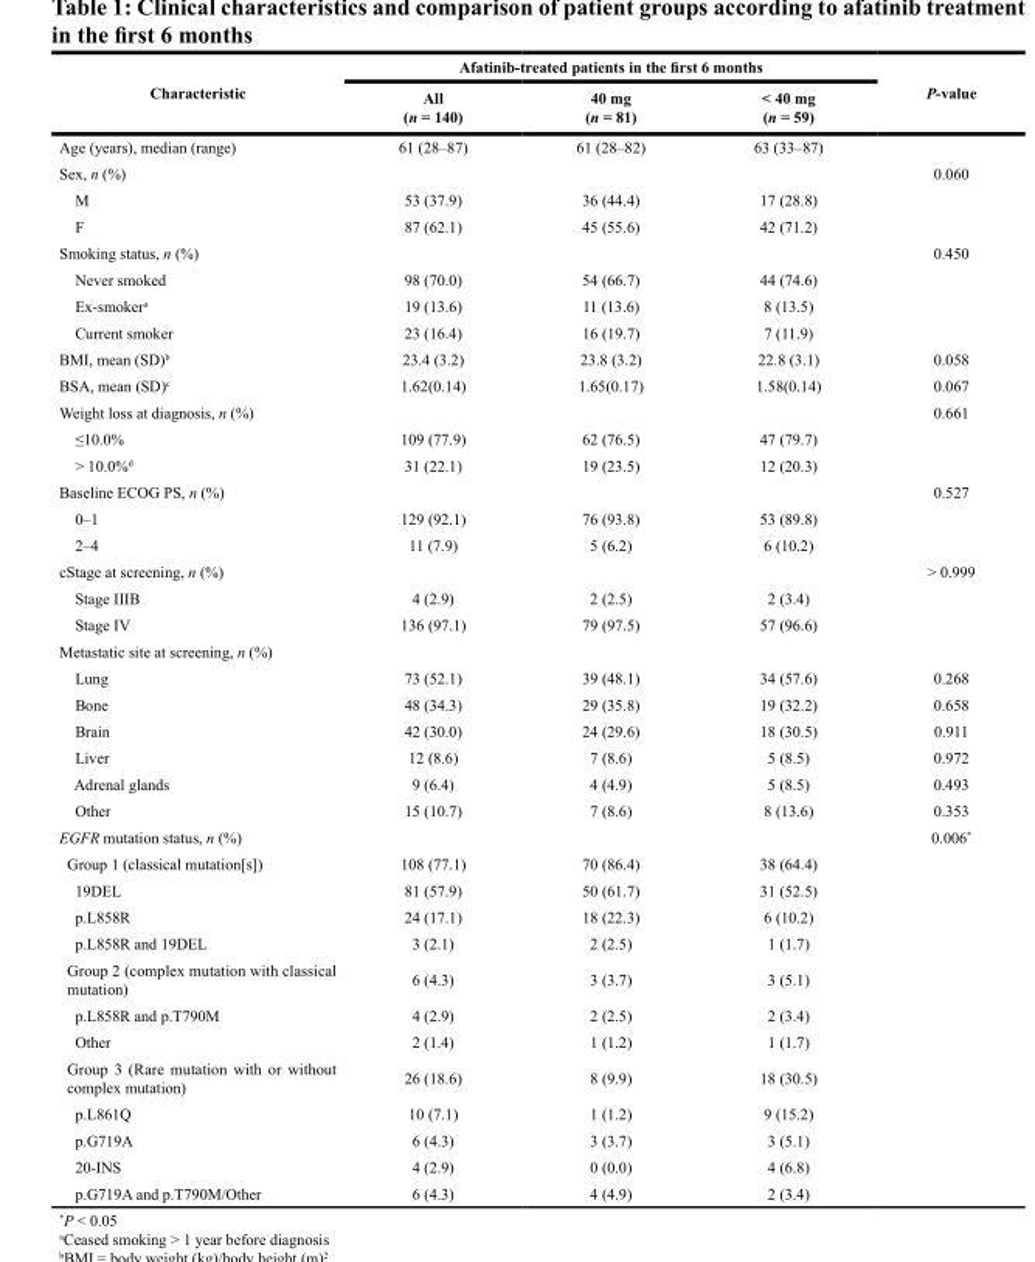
<table><thead><tr><td rowspan="2">Characteristic</td><td colspan="3">Afatinib-treated patients in the first 6 months</td><td rowspan="2">P-value</td></tr><tr><td>All (n = 140)</td><td>40 mg (n = 81)</td><td>&lt; 40 mg (n = 59)</td></tr></thead><tbody><tr><td>Age (years), median (range)</td><td>61 (28–87)</td><td>61 (28–82)</td><td>63 (33–87)</td><td></td></tr><tr><td>Sex, n (%)</td><td></td><td></td><td></td><td>0.060</td></tr><tr><td>M</td><td>53 (37.9)</td><td>36 (44.4)</td><td>17 (28.8)</td><td></td></tr><tr><td>F</td><td>87 (62.1)</td><td>45 (55.6)</td><td>42 (71.2)</td><td></td></tr><tr><td>Smoking status, n (%)</td><td></td><td></td><td></td><td>0.450</td></tr><tr><td>Never smoked</td><td>98 (70.0)</td><td>54 (66.7)</td><td>44 (74.6)</td><td></td></tr><tr><td>Ex-smoker<sup>a</sup></td><td>19 (13.6)</td><td>11 (13.6)</td><td>8 (13.5)</td><td></td></tr><tr><td>Current smoker</td><td>23 (16.4)</td><td>16 (19.7)</td><td>7 (11.9)</td><td></td></tr><tr><td>BMI, mean (SD)<sup>b</sup></td><td>23.4 (3.2)</td><td>23.8 (3.2)</td><td>22.8 (3.1)</td><td>0.058</td></tr><tr><td>BSA, mean (SD)<sup>c</sup></td><td>1.62(0.14)</td><td>1.65(0.17)</td><td>1.58(0.14)</td><td>0.067</td></tr><tr><td>Weight loss at diagnosis, n (%)</td><td></td><td></td><td></td><td>0.661</td></tr><tr><td>≤10.0%</td><td>109 (77.9)</td><td>62 (76.5)</td><td>47 (79.7)</td><td></td></tr><tr><td>&gt; 10.0%<sup>d</sup></td><td>31 (22.1)</td><td>19 (23.5)</td><td>12 (20.3)</td><td></td></tr><tr><td>Baseline ECOG PS, n (%)</td><td></td><td></td><td></td><td>0.527</td></tr><tr><td>0–1</td><td>129 (92.1)</td><td>76 (93.8)</td><td>53 (89.8)</td><td></td></tr><tr><td>2–4</td><td>11 (7.9)</td><td>5 (6.2)</td><td>6 (10.2)</td><td></td></tr><tr><td>cStage at screening, n (%)</td><td></td><td></td><td></td><td>&gt; 0.999</td></tr><tr><td>Stage IIIB</td><td>4 (2.9)</td><td>2 (2.5)</td><td>2 (3.4)</td><td></td></tr><tr><td>Stage IV</td><td>136 (97.1)</td><td>79 (97.5)</td><td>57 (96.6)</td><td></td></tr><tr><td colspan="5">Metastatic site at screening, n (%)</td></tr><tr><td>Lung</td><td>73 (52.1)</td><td>39 (48.1)</td><td>34 (57.6)</td><td>0.268</td></tr><tr><td>Bone</td><td>48 (34.3)</td><td>29 (35.8)</td><td>19 (32.2)</td><td>0.658</td></tr><tr><td>Brain</td><td>42 (30.0)</td><td>24 (29.6)</td><td>18 (30.5)</td><td>0.911</td></tr><tr><td>Liver</td><td>12 (8.6)</td><td>7 (8.6)</td><td>5 (8.5)</td><td>0.972</td></tr><tr><td>Adrenal glands</td><td>9 (6.4)</td><td>4 (4.9)</td><td>5 (8.5)</td><td>0.493</td></tr><tr><td>Other</td><td>15 (10.7)</td><td>7 (8.6)</td><td>8 (13.6)</td><td>0.353</td></tr><tr><td>EGFR mutation status, n (%)</td><td></td><td></td><td></td><td>0.006*</td></tr><tr><td>Group 1 (classical mutation[s])</td><td>108 (77.1)</td><td>70 (86.4)</td><td>38 (64.4)</td><td></td></tr><tr><td>19DEL</td><td>81 (57.9)</td><td>50 (61.7)</td><td>31 (52.5)</td><td></td></tr><tr><td>p.L858R</td><td>24 (17.1)</td><td>18 (22.3)</td><td>6 (10.2)</td><td></td></tr><tr><td>p.L858R and 19DEL</td><td>3 (2.1)</td><td>2 (2.5)</td><td>1 (1.7)</td><td></td></tr><tr><td>Group 2 (complex mutation with classical mutation)</td><td>6 (4.3)</td><td>3 (3.7)</td><td>3 (5.1)</td><td></td></tr><tr><td>p.L858R and p.T790M</td><td>4 (2.9)</td><td>2 (2.5)</td><td>2 (3.4)</td><td></td></tr><tr><td>Other</td><td>2 (1.4)</td><td>1 (1.2)</td><td>1 (1.7)</td><td></td></tr><tr><td>Group 3 (Rare mutation with or without complex mutation)</td><td>26 (18.6)</td><td>8 (9.9)</td><td>18 (30.5)</td><td></td></tr><tr><td>p.L861Q</td><td>10 (7.1)</td><td>1 (1.2)</td><td>9 (15.2)</td><td></td></tr><tr><td>p.G719A</td><td>6 (4.3)</td><td>3 (3.7)</td><td>3 (5.1)</td><td></td></tr><tr><td>20-INS</td><td>4 (2.9)</td><td>0 (0.0)</td><td>4 (6.8)</td><td></td></tr><tr><td>p.G719A and p.T790M/Other</td><td>6 (4.3)</td><td>4 (4.9)</td><td>2 (3.4)</td><td></td></tr></tbody></table>